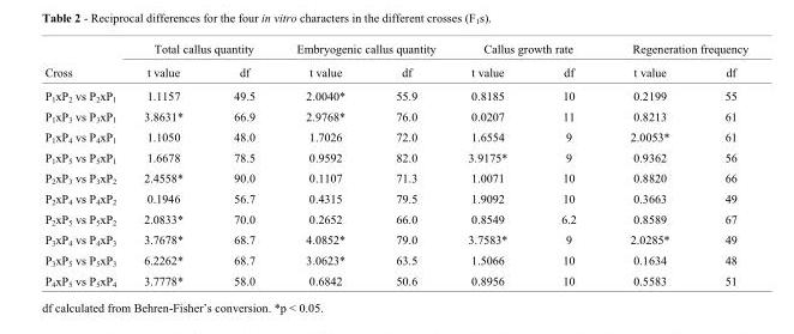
<table><thead><tr><td rowspan="2">Cross</td><td colspan="2">Total callus quantity</td><td colspan="2">Embryogenic callus quantity</td><td colspan="2">Callus growth rate</td><td colspan="2">Regeneration frequency</td></tr><tr><td>t value</td><td>df</td><td>t value</td><td>df</td><td>t value</td><td>df</td><td>t value</td><td>df</td></tr></thead><tbody><tr><td>P<sub>1</sub>xP<sub>2</sub> vs P<sub>2</sub>xP<sub>1</sub></td><td>1.1157</td><td>49.5</td><td>2.0040*</td><td>55.9</td><td>0.8185</td><td>10</td><td>0.2199</td><td>55</td></tr><tr><td>P<sub>1</sub>xP<sub>3</sub> vs P<sub>3</sub>xP<sub>1</sub></td><td>3.8631*</td><td>66.9</td><td>2.9768*</td><td>76.0</td><td>0.0207</td><td>11</td><td>0.8213</td><td>61</td></tr><tr><td>P<sub>1</sub>xP<sub>4</sub> vs P<sub>4</sub>xP<sub>1</sub></td><td>1.1050</td><td>48.0</td><td>1.7026</td><td>72.0</td><td>1.6554</td><td>9</td><td>2.0053*</td><td>61</td></tr><tr><td>P<sub>1</sub>xP<sub>5</sub> vs P<sub>5</sub>xP<sub>1</sub></td><td>1.6678</td><td>78.5</td><td>0.9592</td><td>82.0</td><td>3.9175*</td><td>9</td><td>0.9362</td><td>56</td></tr><tr><td>P<sub>2</sub>xP<sub>3</sub> vs P<sub>3</sub>xP<sub>2</sub></td><td>2.4558*</td><td>90.0</td><td>0.1107</td><td>71.3</td><td>1.0071</td><td>10</td><td>0.8820</td><td>66</td></tr><tr><td>P<sub>2</sub>xP<sub>4</sub> vs P<sub>4</sub>xP<sub>2</sub></td><td>0.1946</td><td>56.7</td><td>0.4315</td><td>79.5</td><td>1.9092</td><td>10</td><td>0.3663</td><td>49</td></tr><tr><td>P<sub>2</sub>xP<sub>5</sub> vs P<sub>5</sub>xP<sub>2</sub></td><td>2.0833*</td><td>70.0</td><td>0.2652</td><td>66.0</td><td>0.8549</td><td>6.2</td><td>0.8589</td><td>67</td></tr><tr><td>P<sub>3</sub>xP<sub>4</sub> vs P<sub>4</sub>xP<sub>3</sub></td><td>3.7678*</td><td>68.7</td><td>4.0852*</td><td>79.0</td><td>3.7583*</td><td>9</td><td>2.0285*</td><td>49</td></tr><tr><td>P<sub>3</sub>xP<sub>5</sub> vs P<sub>5</sub>xP<sub>3</sub></td><td>6.2262*</td><td>68.7</td><td>3.0623*</td><td>63.5</td><td>1.5066</td><td>10</td><td>0.1634</td><td>48</td></tr><tr><td>P<sub>4</sub>xP<sub>5</sub> vs P<sub>5</sub>xP<sub>4</sub></td><td>3.7778*</td><td>58.0</td><td>0.6842</td><td>50.6</td><td>0.8956</td><td>10</td><td>0.5583</td><td>51</td></tr></tbody></table>